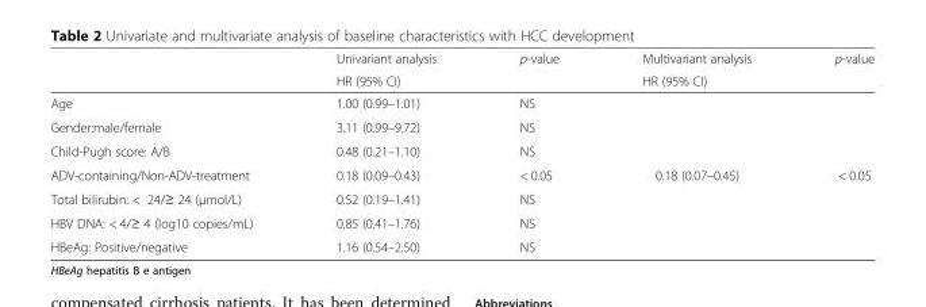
<table><thead><tr><td rowspan="2"></td><td rowspan="2">Univariant analysis HR (95% CI)</td><td rowspan="2">p-value</td><td rowspan="2">Multivariant analysis HR (95% CI)</td><td rowspan="2">p-value</td></tr><tr></tr></thead><tbody><tr><td>Age</td><td>1.00 (0.99–1.01)</td><td>NS</td><td></td><td></td></tr><tr><td>Gender:male/female</td><td>3.11 (0.99–9.72)</td><td>NS</td><td></td><td></td></tr><tr><td>Child-Pugh score: A/B</td><td>0.48 (0.21–1.10)</td><td>NS</td><td></td><td></td></tr><tr><td>ADV-containing/Non-ADV-treatment</td><td>0.18 (0.09–0.43)</td><td>&lt; 0.05</td><td>0.18 (0.07–0.45)</td><td>&lt; 0.05</td></tr><tr><td>Total bilirubin: &lt; 24/≥ 24 (μmol/L)</td><td>0.52 (0.19–1.41)</td><td>NS</td><td></td><td></td></tr><tr><td>HBV DNA: &lt; 4/≥ 4 (log10 copies/mL)</td><td>0.85 (0.41–1.76)</td><td>NS</td><td></td><td></td></tr><tr><td>HBeAg: Positive/negative</td><td>1.16 (0.54–2.50)</td><td>NS</td><td></td><td></td></tr></tbody></table>